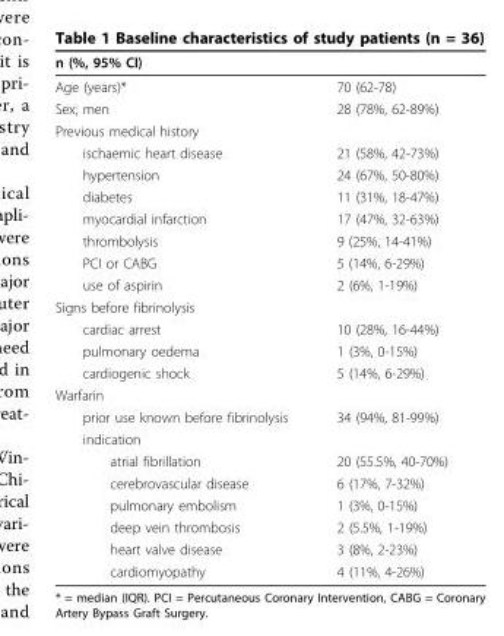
<table><thead><tr><td colspan="2">n (%, 95% CI)</td></tr><tr><td>Age (years)*</td><td>70 (62-78)</td></tr></thead><tbody><tr><td>Sex; men</td><td>28 (78%, 62-89%)</td></tr><tr><td colspan="2">Previous medical history</td></tr><tr><td>ischaemic heart disease</td><td>21 (58%, 42-73%)</td></tr><tr><td>hypertension</td><td>24 (67%, 50-80%)</td></tr><tr><td>diabetes</td><td>11 (31%, 18-47%)</td></tr><tr><td>myocardial infarction</td><td>17 (47%, 32-63%)</td></tr><tr><td>thrombolysis</td><td>9 (25%, 14-41%)</td></tr><tr><td>PCI or CABG</td><td>5 (14%, 6-29%)</td></tr><tr><td>use of aspirin</td><td>2 (6%, 1-19%)</td></tr><tr><td colspan="2">Signs before fibrinolysis</td></tr><tr><td>cardiac arrest</td><td>10 (28%, 16-44%)</td></tr><tr><td>pulmonary oedema</td><td>1 (3%, 0-15%)</td></tr><tr><td>cardiogenic shock</td><td>5 (14%, 6-29%)</td></tr><tr><td colspan="2">Warfarin</td></tr><tr><td>prior use known before fibrinolysis</td><td>34 (94%, 81-99%)</td></tr><tr><td colspan="2">indication</td></tr><tr><td>atrial fibrillation</td><td>20 (55.5%, 40-70%)</td></tr><tr><td>cerebrovascular disease</td><td>6 (17%, 7-32%)</td></tr><tr><td>pulmonary embolism</td><td>1 (3%, 0-15%)</td></tr><tr><td>deep vein thrombosis</td><td>2 (5.5%, 1-19%)</td></tr><tr><td>heart valve disease</td><td>3 (8%, 2-23%)</td></tr><tr><td>cardiomyopathy</td><td>4 (11%, 4-26%)</td></tr></tbody></table>